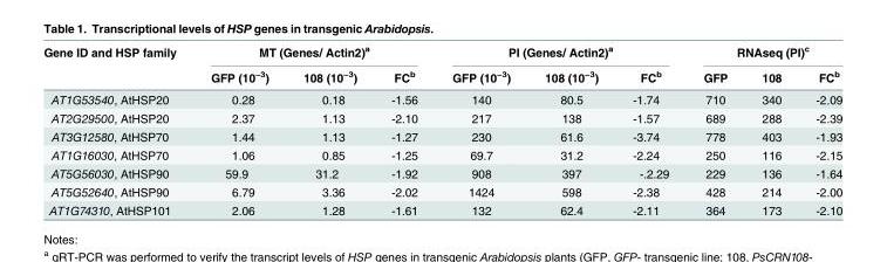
<table><thead><tr><td rowspan="2">Gene ID and HSP family</td><td colspan="3">MT (Genes/ Actin2)<sup>a</sup></td><td colspan="3">PI (Genes/ Actin2)<sup>a</sup></td><td colspan="3">RNAseq (PI)<sup>c</sup></td></tr><tr><td>GFP (10<sup>−3</sup>)</td><td>108 (10<sup>−3</sup>)</td><td>FC<sup>b</sup></td><td>GFP (10<sup>−3</sup>)</td><td>108 (10<sup>−3</sup>)</td><td>FC<sup>b</sup></td><td>GFP</td><td>108</td><td>FC<sup>b</sup></td></tr></thead><tbody><tr><td>AT1G53540, AtHSP20</td><td>0.28</td><td>0.18</td><td>-1.56</td><td>140</td><td>80.5</td><td>-1.74</td><td>710</td><td>340</td><td>-2.09</td></tr><tr><td>AT2G29500, AtHSP20</td><td>2.37</td><td>1.13</td><td>-2.10</td><td>217</td><td>138</td><td>-1.57</td><td>689</td><td>288</td><td>-2.39</td></tr><tr><td>AT3G12580, AtHSP70</td><td>1.44</td><td>1.13</td><td>-1.27</td><td>230</td><td>61.6</td><td>-3.74</td><td>778</td><td>403</td><td>-1.93</td></tr><tr><td>AT1G16030, AtHSP70</td><td>1.06</td><td>0.85</td><td>-1.25</td><td>69.7</td><td>31.2</td><td>-2.24</td><td>250</td><td>116</td><td>-2.15</td></tr><tr><td>AT5G56030, AtHSP90</td><td>59.9</td><td>31.2</td><td>-1.92</td><td>908</td><td>397</td><td>-.2.29</td><td>229</td><td>136</td><td>-1.64</td></tr><tr><td>AT5G52640, AtHSP90</td><td>6.79</td><td>3.36</td><td>-2.02</td><td>1424</td><td>598</td><td>-2.38</td><td>428</td><td>214</td><td>-2.00</td></tr><tr><td>AT1G74310, AtHSP101</td><td>2.06</td><td>1.28</td><td>-1.61</td><td>132</td><td>62.4</td><td>-2.11</td><td>364</td><td>173</td><td>-2.10</td></tr></tbody></table>